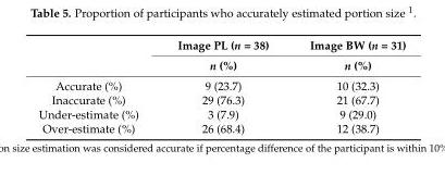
<table><thead><tr><td rowspan="2"></td><td rowspan="2">Image PL (n = 38) n (%)</td><td rowspan="2">Image BW (n = 31) n (%)</td></tr><tr></tr></thead><tbody><tr><td>Accurate (%)</td><td>9 (23.7)</td><td>10 (32.3)</td></tr><tr><td>Inaccurate (%)</td><td>29 (76.3)</td><td>21 (67.7)</td></tr><tr><td>Under-estimate (%)</td><td>3 (7.9)</td><td>9 (29.0)</td></tr><tr><td>Over-estimate (%)</td><td>26 (68.4)</td><td>12 (38.7)</td></tr></tbody></table>